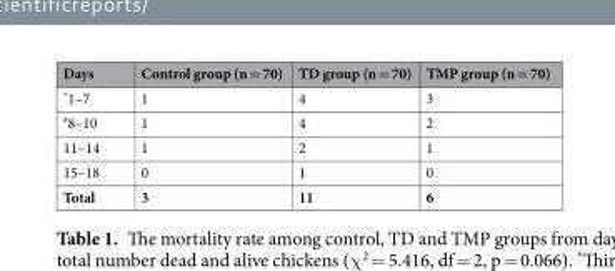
<table><thead><tr><td>Days</td><td>Control group (n = 70)</td><td>TD group (n = 70)</td><td>TMP group (n = 70)</td></tr></thead><tbody><tr><td>*1–7</td><td>1</td><td>4</td><td>3</td></tr><tr><td><sup>#</sup>8–10</td><td>1</td><td>4</td><td>2</td></tr><tr><td>11–14</td><td>1</td><td>2</td><td>1</td></tr><tr><td>15–18</td><td>0</td><td>1</td><td>0</td></tr><tr><td>Total</td><td>3</td><td>11</td><td>6</td></tr></tbody></table>